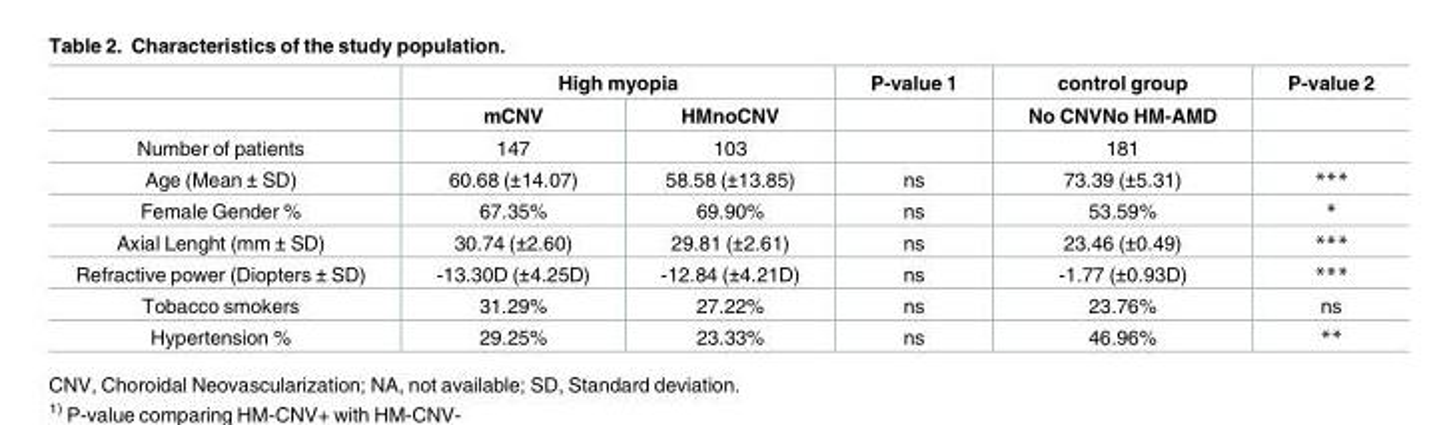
<table><thead><tr><td rowspan="2"></td><td colspan="2">High myopia</td><td rowspan="2">P-value 1</td><td rowspan="2">control group No CNVNo HM-AMD</td><td rowspan="2">P-value 2</td></tr><tr><td>mCNV</td><td>HMnoCNV</td></tr></thead><tbody><tr><td>Number of patients</td><td>147</td><td>103</td><td></td><td>181</td><td></td></tr><tr><td>Age (Mean ± SD)</td><td>60.68 (±14.07)</td><td>58.58 (±13.85)</td><td>ns</td><td>73.39 (±5.31)</td><td>***</td></tr><tr><td>Female Gender %</td><td>67.35%</td><td>69.90%</td><td>ns</td><td>53.59%</td><td>*</td></tr><tr><td>Axial Lenght (mm ± SD)</td><td>30.74 (±2.60)</td><td>29.81 (±2.61)</td><td>ns</td><td>23.46 (±0.49)</td><td>***</td></tr><tr><td>Refractive power (Diopters ± SD)</td><td>-13.30D (±4.25D)</td><td>-12.84 (±4.21D)</td><td>ns</td><td>-1.77 (±0.93D)</td><td>***</td></tr><tr><td>Tobacco smokers</td><td>31.29%</td><td>27.22%</td><td>ns</td><td>23.76%</td><td>ns</td></tr><tr><td>Hypertension %</td><td>29.25%</td><td>23.33%</td><td>ns</td><td>46.96%</td><td>**</td></tr></tbody></table>